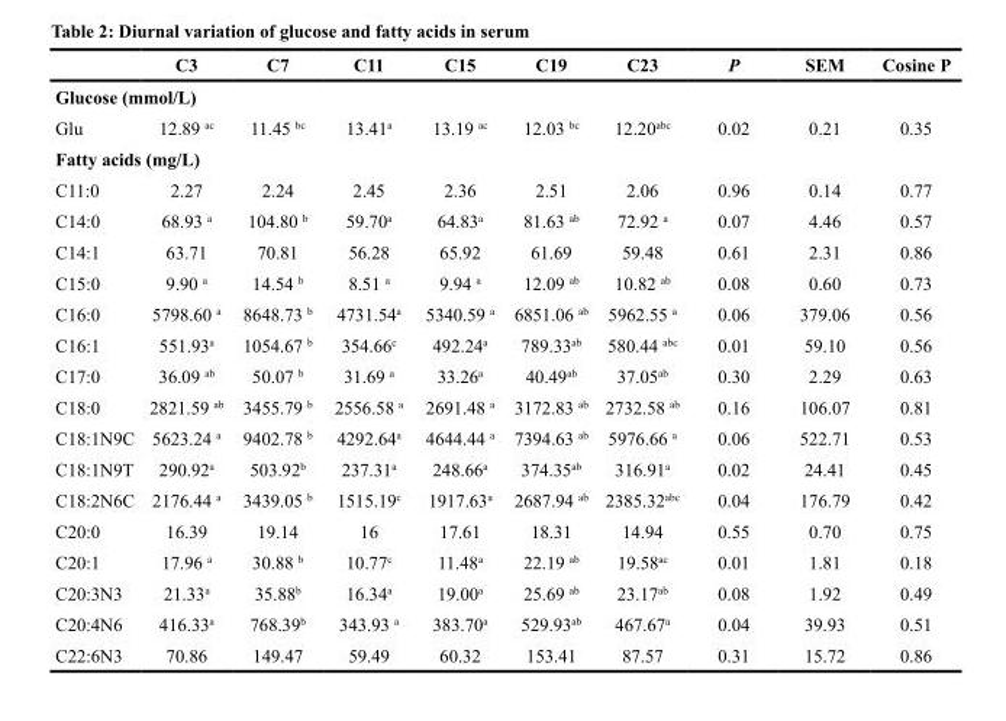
<table><thead><tr><td></td><td>C3</td><td>C7</td><td>C11</td><td>C15</td><td>C19</td><td>C23</td><td>P</td><td>SEM</td><td>Cosine P</td></tr></thead><tbody><tr><td colspan="10">Glucose (mmol/L)</td></tr><tr><td>Glu</td><td>12.89 <sup>ac</sup></td><td>11.45 <sup>bc</sup></td><td>13.41<sup>a</sup></td><td>13.19 <sup>ac</sup></td><td>12.03 <sup>bc</sup></td><td>12.20<sup>abc</sup></td><td>0.02</td><td>0.21</td><td>0.35</td></tr><tr><td colspan="10">Fatty acids (mg/L)</td></tr><tr><td>C11:0</td><td>2.27</td><td>2.24</td><td>2.45</td><td>2.36</td><td>2.51</td><td>2.06</td><td>0.96</td><td>0.14</td><td>0.77</td></tr><tr><td>C14:0</td><td>68.93 <sup>a</sup></td><td>104.80 <sup>b</sup></td><td>59.70<sup>a</sup></td><td>64.83<sup>a</sup></td><td>81.63 <sup>ab</sup></td><td>72.92 <sup>a</sup></td><td>0.07</td><td>4.46</td><td>0.57</td></tr><tr><td>C14:1</td><td>63.71</td><td>70.81</td><td>56.28</td><td>65.92</td><td>61.69</td><td>59.48</td><td>0.61</td><td>2.31</td><td>0.86</td></tr><tr><td>C15:0</td><td>9.90 <sup>a</sup></td><td>14.54 <sup>b</sup></td><td>8.51 <sup>a</sup></td><td>9.94 <sup>a</sup></td><td>12.09 <sup>ab</sup></td><td>10.82 <sup>ab</sup></td><td>0.08</td><td>0.60</td><td>0.73</td></tr><tr><td>C16:0</td><td>5798.60 <sup>a</sup></td><td>8648.73 <sup>b</sup></td><td>4731.54<sup>a</sup></td><td>5340.59 <sup>a</sup></td><td>6851.06 <sup>ab</sup></td><td>5962.55 <sup>a</sup></td><td>0.06</td><td>379.06</td><td>0.56</td></tr><tr><td>C16:1</td><td>551.93<sup>a</sup></td><td>1054.67 <sup>b</sup></td><td>354.66<sup>c</sup></td><td>492.24<sup>a</sup></td><td>789.33<sup>ab</sup></td><td>580.44 <sup>abc</sup></td><td>0.01</td><td>59.10</td><td>0.56</td></tr><tr><td>C17:0</td><td>36.09 <sup>ab</sup></td><td>50.07 <sup>b</sup></td><td>31.69 <sup>a</sup></td><td>33.26<sup>a</sup></td><td>40.49<sup>ab</sup></td><td>37.05<sup>ab</sup></td><td>0.30</td><td>2.29</td><td>0.63</td></tr><tr><td>C18:0</td><td>2821.59 <sup>ab</sup></td><td>3455.79 <sup>b</sup></td><td>2556.58 <sup>a</sup></td><td>2691.48 <sup>a</sup></td><td>3172.83 <sup>ab</sup></td><td>2732.58 <sup>ab</sup></td><td>0.16</td><td>106.07</td><td>0.81</td></tr><tr><td>C18:1N9C</td><td>5623.24 <sup>a</sup></td><td>9402.78 <sup>b</sup></td><td>4292.64<sup>a</sup></td><td>4644.44 <sup>a</sup></td><td>7394.63 <sup>ab</sup></td><td>5976.66 <sup>a</sup></td><td>0.06</td><td>522.71</td><td>0.53</td></tr><tr><td>C18:1N9T</td><td>290.92<sup>a</sup></td><td>503.92<sup>b</sup></td><td>237.31<sup>a</sup></td><td>248.66<sup>a</sup></td><td>374.35<sup>ab</sup></td><td>316.91<sup>a</sup></td><td>0.02</td><td>24.41</td><td>0.45</td></tr><tr><td>C18:2N6C</td><td>2176.44 <sup>a</sup></td><td>3439.05 <sup>b</sup></td><td>1515.19<sup>c</sup></td><td>1917.63<sup>a</sup></td><td>2687.94 <sup>ab</sup></td><td>2385.32<sup>abc</sup></td><td>0.04</td><td>176.79</td><td>0.42</td></tr><tr><td>C20:0</td><td>16.39</td><td>19.14</td><td>16</td><td>17.61</td><td>18.31</td><td>14.94</td><td>0.55</td><td>0.70</td><td>0.75</td></tr><tr><td>C20:1</td><td>17.96 <sup>a</sup></td><td>30.88 <sup>b</sup></td><td>10.77<sup>c</sup></td><td>11.48<sup>a</sup></td><td>22.19 <sup>ab</sup></td><td>19.58<sup>ac</sup></td><td>0.01</td><td>1.81</td><td>0.18</td></tr><tr><td>C20:3N3</td><td>21.33<sup>a</sup></td><td>35.88<sup>b</sup></td><td>16.34<sup>a</sup></td><td>19.00<sup>a</sup></td><td>25.69 <sup>ab</sup></td><td>23.17<sup>ab</sup></td><td>0.08</td><td>1.92</td><td>0.49</td></tr><tr><td>C20:4N6</td><td>416.33<sup>a</sup></td><td>768.39<sup>b</sup></td><td>343.93 <sup>a</sup></td><td>383.70<sup>a</sup></td><td>529.93<sup>ab</sup></td><td>467.67<sup>a</sup></td><td>0.04</td><td>39.93</td><td>0.51</td></tr><tr><td>C22:6N3</td><td>70.86</td><td>149.47</td><td>59.49</td><td>60.32</td><td>153.41</td><td>87.57</td><td>0.31</td><td>15.72</td><td>0.86</td></tr></tbody></table>